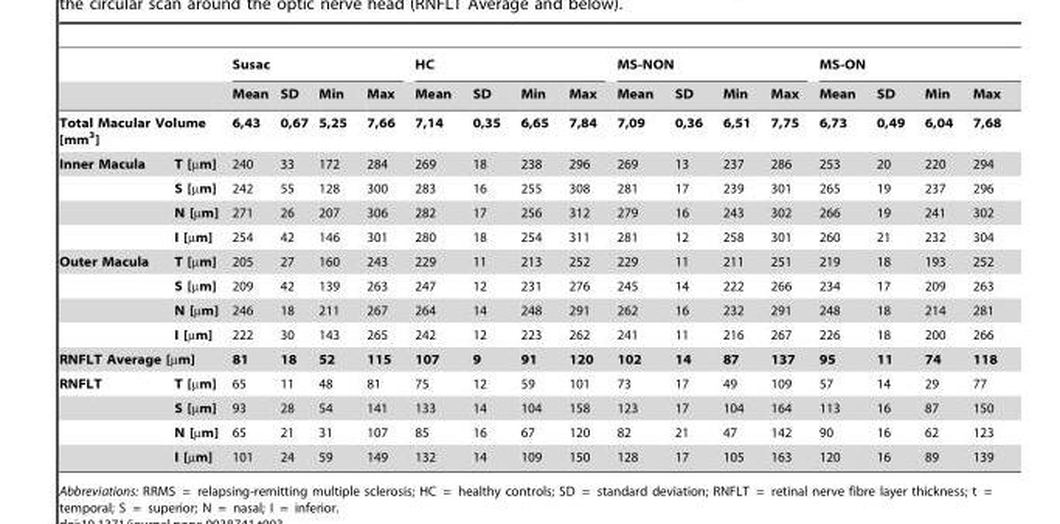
<table><thead><tr><td rowspan="2"></td><td rowspan="2"></td><td colspan="4">Susac</td><td colspan="4">HC</td><td colspan="4">MS-NON</td><td colspan="4">MS-ON</td></tr><tr><td>Mean</td><td>SD</td><td>Min</td><td>Max</td><td>Mean</td><td>SD</td><td>Min</td><td>Max</td><td>Mean</td><td>SD</td><td>Min</td><td>Max</td><td>Mean</td><td>SD</td><td>Min</td><td>Max</td></tr></thead><tbody><tr><td colspan="2">Total Macular Volume [mm<sup>3</sup>]</td><td>6,43</td><td>0,67</td><td>5,25</td><td>7,66</td><td>7,14</td><td>0,35</td><td>6,65</td><td>7,84</td><td>7,09</td><td>0,36</td><td>6,51</td><td>7,75</td><td>6,73</td><td>0,49</td><td>6,04</td><td>7,68</td></tr><tr><td rowspan="4">Inner Macula</td><td>T [µm]</td><td>240</td><td>33</td><td>172</td><td>284</td><td>269</td><td>18</td><td>238</td><td>296</td><td>269</td><td>13</td><td>237</td><td>286</td><td>253</td><td>20</td><td>220</td><td>294</td></tr><tr><td>S [µm]</td><td>242</td><td>55</td><td>128</td><td>300</td><td>283</td><td>16</td><td>255</td><td>308</td><td>281</td><td>17</td><td>239</td><td>301</td><td>265</td><td>19</td><td>237</td><td>296</td></tr><tr><td>N [µm]</td><td>271</td><td>26</td><td>207</td><td>306</td><td>282</td><td>17</td><td>256</td><td>312</td><td>279</td><td>16</td><td>243</td><td>302</td><td>266</td><td>19</td><td>241</td><td>302</td></tr><tr><td>I [µm]</td><td>254</td><td>42</td><td>146</td><td>301</td><td>280</td><td>18</td><td>254</td><td>311</td><td>281</td><td>12</td><td>258</td><td>301</td><td>260</td><td>21</td><td>232</td><td>304</td></tr><tr><td rowspan="4">Outer Macula</td><td>T [µm]</td><td>205</td><td>27</td><td>160</td><td>243</td><td>229</td><td>11</td><td>213</td><td>252</td><td>229</td><td>11</td><td>211</td><td>251</td><td>219</td><td>18</td><td>193</td><td>252</td></tr><tr><td>S [µm]</td><td>209</td><td>42</td><td>139</td><td>263</td><td>247</td><td>12</td><td>231</td><td>276</td><td>245</td><td>14</td><td>222</td><td>266</td><td>234</td><td>17</td><td>209</td><td>263</td></tr><tr><td>N [µm]</td><td>246</td><td>18</td><td>211</td><td>267</td><td>264</td><td>14</td><td>248</td><td>291</td><td>262</td><td>16</td><td>232</td><td>291</td><td>248</td><td>18</td><td>214</td><td>281</td></tr><tr><td>I [µm]</td><td>222</td><td>30</td><td>143</td><td>265</td><td>242</td><td>12</td><td>223</td><td>262</td><td>241</td><td>11</td><td>216</td><td>267</td><td>226</td><td>18</td><td>200</td><td>266</td></tr><tr><td colspan="2">RNFLT Average [µm]</td><td>81</td><td>18</td><td>52</td><td>115</td><td>107</td><td>9</td><td>91</td><td>120</td><td>102</td><td>14</td><td>87</td><td>137</td><td>95</td><td>11</td><td>74</td><td>118</td></tr><tr><td rowspan="4">RNFLT</td><td>T [µm]</td><td>65</td><td>11</td><td>48</td><td>81</td><td>75</td><td>12</td><td>59</td><td>101</td><td>73</td><td>17</td><td>49</td><td>109</td><td>57</td><td>14</td><td>29</td><td>77</td></tr><tr><td>S [µm]</td><td>93</td><td>28</td><td>54</td><td>141</td><td>133</td><td>14</td><td>104</td><td>158</td><td>123</td><td>17</td><td>104</td><td>164</td><td>113</td><td>16</td><td>87</td><td>150</td></tr><tr><td>N [µm]</td><td>65</td><td>21</td><td>31</td><td>107</td><td>85</td><td>16</td><td>67</td><td>120</td><td>82</td><td>21</td><td>47</td><td>142</td><td>90</td><td>16</td><td>62</td><td>123</td></tr><tr><td>I [µm]</td><td>101</td><td>24</td><td>59</td><td>149</td><td>132</td><td>14</td><td>109</td><td>150</td><td>128</td><td>17</td><td>105</td><td>163</td><td>120</td><td>16</td><td>89</td><td>139</td></tr></tbody></table>